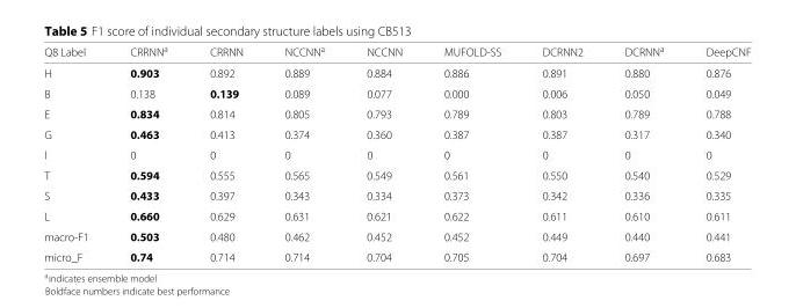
<table><thead><tr><td>Q8 Label</td><td>CRRNN<sup>a</sup></td><td>CRRNN</td><td>NCCNN<sup>a</sup></td><td>NCCNN</td><td>MUFOLD-SS</td><td>DCRNN2</td><td>DCRNN<sup>a</sup></td><td>DeepCNF</td></tr></thead><tbody><tr><td>H</td><td>0.903</td><td>0.892</td><td>0.889</td><td>0.884</td><td>0.886</td><td>0.891</td><td>0.880</td><td>0.876</td></tr><tr><td>B</td><td>0.138</td><td>0.139</td><td>0.089</td><td>0.077</td><td>0.000</td><td>0.006</td><td>0.050</td><td>0.049</td></tr><tr><td>E</td><td>0.834</td><td>0.814</td><td>0.805</td><td>0.793</td><td>0.789</td><td>0.803</td><td>0.789</td><td>0.788</td></tr><tr><td>G</td><td>0.463</td><td>0.413</td><td>0.374</td><td>0.360</td><td>0.387</td><td>0.387</td><td>0.317</td><td>0.340</td></tr><tr><td>I</td><td>0</td><td>0</td><td>0</td><td>0</td><td>0</td><td>0</td><td>0</td><td>0</td></tr><tr><td>T</td><td>0.594</td><td>0.555</td><td>0.565</td><td>0.549</td><td>0.561</td><td>0.550</td><td>0.540</td><td>0.529</td></tr><tr><td>S</td><td>0.433</td><td>0.397</td><td>0.343</td><td>0.334</td><td>0.373</td><td>0.342</td><td>0.336</td><td>0.335</td></tr><tr><td>L</td><td>0.660</td><td>0.629</td><td>0.631</td><td>0.621</td><td>0.622</td><td>0.611</td><td>0.610</td><td>0.611</td></tr><tr><td>macro-F1</td><td>0.503</td><td>0.480</td><td>0.462</td><td>0.452</td><td>0.452</td><td>0.449</td><td>0.440</td><td>0.441</td></tr><tr><td>micro_F</td><td>0.74</td><td>0.714</td><td>0.714</td><td>0.704</td><td>0.705</td><td>0.704</td><td>0.697</td><td>0.683</td></tr></tbody></table>